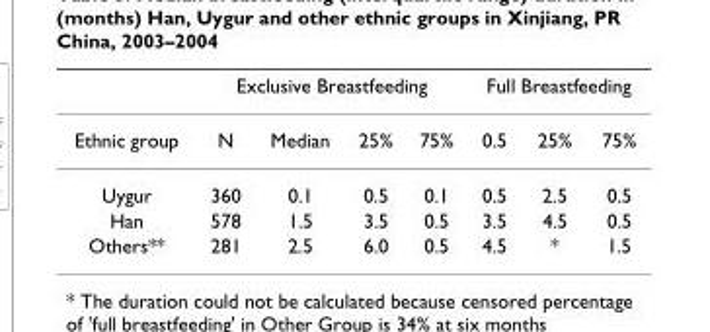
<table><thead><tr><td rowspan="2">Ethnic group</td><td colspan="4">Exclusive Breastfeeding</td><td colspan="3">Full Breastfeeding</td></tr><tr><td>N</td><td>Median</td><td>25%</td><td>75%</td><td>0.5</td><td>25%</td><td>75%</td></tr></thead><tbody><tr><td>Uygur</td><td>360</td><td>0.1</td><td>0.5</td><td>0.1</td><td>0.5</td><td>2.5</td><td>0.5</td></tr><tr><td>Han</td><td>578</td><td>1.5</td><td>3.5</td><td>0.5</td><td>3.5</td><td>4.5</td><td>0.5</td></tr><tr><td>Others**</td><td>281</td><td>2.5</td><td>6.0</td><td>0.5</td><td>4.5</td><td>*</td><td>1.5</td></tr></tbody></table>